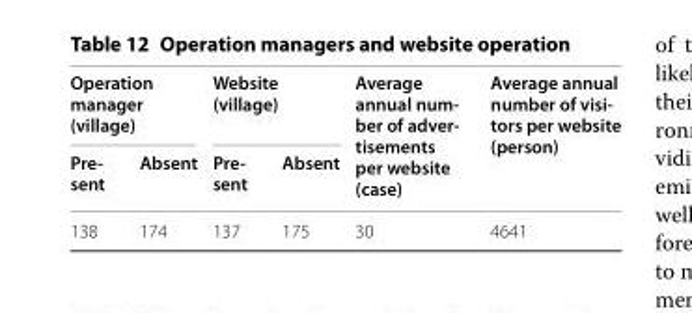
<table><thead><tr><td colspan="2">Operation manager (village)</td><td colspan="2">Website (village)</td><td rowspan="2">Average annual num- ber of adver- tisements per website (case)</td><td rowspan="2">Average annual number of visi- tors per website (person)</td></tr><tr><td>Pre- sent</td><td>Absent</td><td>Pre- sent</td><td>Absent</td></tr></thead><tbody><tr><td>138</td><td>174</td><td>137</td><td>175</td><td>30</td><td>4641</td></tr></tbody></table>